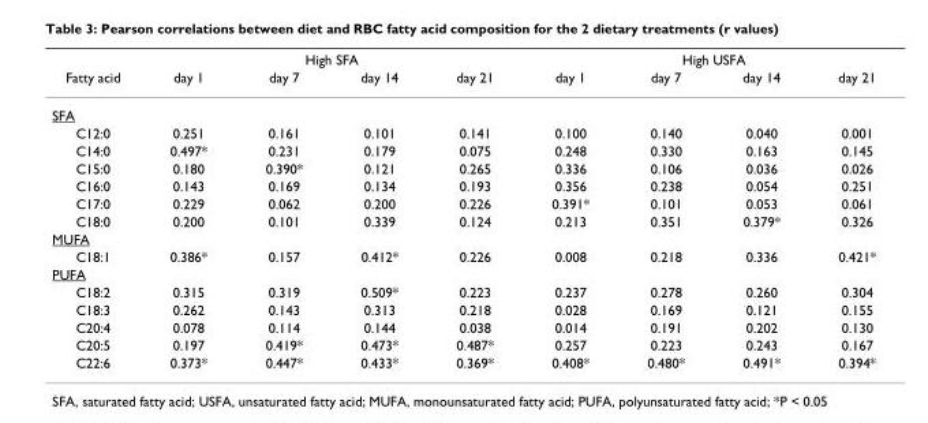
<table><thead><tr><td rowspan="2">Fatty acid</td><td colspan="4">High SFA</td><td colspan="4">High USFA</td></tr><tr><td>day 1</td><td>day 7</td><td>day 14</td><td>day 21</td><td>day 1</td><td>day 7</td><td>day 14</td><td>day 21</td></tr></thead><tbody><tr><td colspan="9">SFA</td></tr><tr><td>C12:0</td><td>0.251</td><td>0.161</td><td>0.101</td><td>0.141</td><td>0.100</td><td>0.140</td><td>0.040</td><td>0.001</td></tr><tr><td>C14:0</td><td>0.497*</td><td>0.231</td><td>0.179</td><td>0.075</td><td>0.248</td><td>0.330</td><td>0.163</td><td>0.145</td></tr><tr><td>C15:0</td><td>0.180</td><td>0.390*</td><td>0.121</td><td>0.265</td><td>0.336</td><td>0.106</td><td>0.036</td><td>0.026</td></tr><tr><td>C16:0</td><td>0.143</td><td>0.169</td><td>0.134</td><td>0.193</td><td>0.356</td><td>0.238</td><td>0.054</td><td>0.251</td></tr><tr><td>C17:0</td><td>0.229</td><td>0.062</td><td>0.200</td><td>0.226</td><td>0.391*</td><td>0.101</td><td>0.053</td><td>0.061</td></tr><tr><td>C18:0</td><td>0.200</td><td>0.101</td><td>0.339</td><td>0.124</td><td>0.213</td><td>0.351</td><td>0.379*</td><td>0.326</td></tr><tr><td colspan="9">MUFA</td></tr><tr><td>C18:1</td><td>0.386*</td><td>0.157</td><td>0.412*</td><td>0.226</td><td>0.008</td><td>0.218</td><td>0.336</td><td>0.421*</td></tr><tr><td colspan="9">PUFA</td></tr><tr><td>C18:2</td><td>0.315</td><td>0.319</td><td>0.509*</td><td>0.223</td><td>0.237</td><td>0.278</td><td>0.260</td><td>0.304</td></tr><tr><td>C18:3</td><td>0.262</td><td>0.143</td><td>0.313</td><td>0.218</td><td>0.028</td><td>0.169</td><td>0.121</td><td>0.155</td></tr><tr><td>C20:4</td><td>0.078</td><td>0.114</td><td>0.144</td><td>0.038</td><td>0.014</td><td>0.191</td><td>0.202</td><td>0.130</td></tr><tr><td>C20:5</td><td>0.197</td><td>0.419*</td><td>0.473*</td><td>0.487*</td><td>0.257</td><td>0.223</td><td>0.243</td><td>0.167</td></tr><tr><td>C22:6</td><td>0.373*</td><td>0.447*</td><td>0.433*</td><td>0.369*</td><td>0.408*</td><td>0.480*</td><td>0.491*</td><td>0.394*</td></tr></tbody></table>